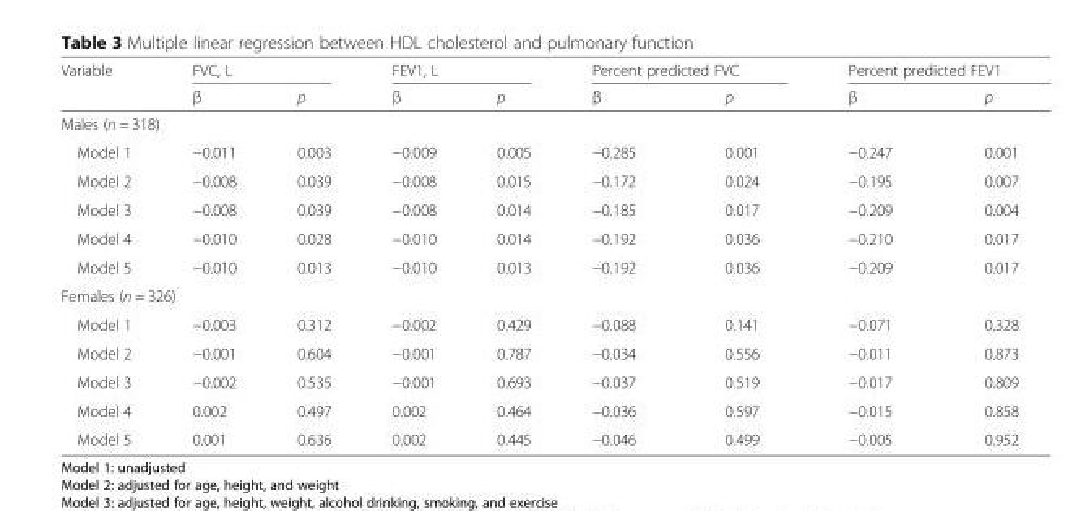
<table><thead><tr><td rowspan="2">Variable</td><td colspan="2">FVC, L</td><td colspan="2">FEV1, L</td><td colspan="2">Percent predicted FVC</td><td colspan="2">Percent predicted FEV1</td></tr><tr><td>β</td><td>p</td><td>β</td><td>p</td><td>β</td><td>p</td><td>β</td><td>p</td></tr></thead><tbody><tr><td colspan="9">Males (n = 318)</td></tr><tr><td>Model 1</td><td>−0.011</td><td>0.003</td><td>−0.009</td><td>0.005</td><td>−0.285</td><td>0.001</td><td>−0.247</td><td>0.001</td></tr><tr><td>Model 2</td><td>−0.008</td><td>0.039</td><td>−0.008</td><td>0.015</td><td>−0.172</td><td>0.024</td><td>−0.195</td><td>0.007</td></tr><tr><td>Model 3</td><td>−0.008</td><td>0.039</td><td>−0.008</td><td>0.014</td><td>−0.185</td><td>0.017</td><td>−0.209</td><td>0.004</td></tr><tr><td>Model 4</td><td>−0.010</td><td>0.028</td><td>−0.010</td><td>0.014</td><td>−0.192</td><td>0.036</td><td>−0.210</td><td>0.017</td></tr><tr><td>Model 5</td><td>−0.010</td><td>0.013</td><td>−0.010</td><td>0.013</td><td>−0.192</td><td>0.036</td><td>−0.209</td><td>0.017</td></tr><tr><td colspan="9">Females (n = 326)</td></tr><tr><td>Model 1</td><td>−0.003</td><td>0.312</td><td>−0.002</td><td>0.429</td><td>−0.088</td><td>0.141</td><td>−0.071</td><td>0.328</td></tr><tr><td>Model 2</td><td>−0.001</td><td>0.604</td><td>−0.001</td><td>0.787</td><td>−0.034</td><td>0.556</td><td>−0.011</td><td>0.873</td></tr><tr><td>Model 3</td><td>−0.002</td><td>0.535</td><td>−0.001</td><td>0.693</td><td>−0.037</td><td>0.519</td><td>−0.017</td><td>0.809</td></tr><tr><td>Model 4</td><td>0.002</td><td>0.497</td><td>0.002</td><td>0.464</td><td>−0.036</td><td>0.597</td><td>−0.015</td><td>0.858</td></tr><tr><td>Model 5</td><td>0.001</td><td>0.636</td><td>0.002</td><td>0.445</td><td>−0.046</td><td>0.499</td><td>−0.005</td><td>0.952</td></tr></tbody></table>